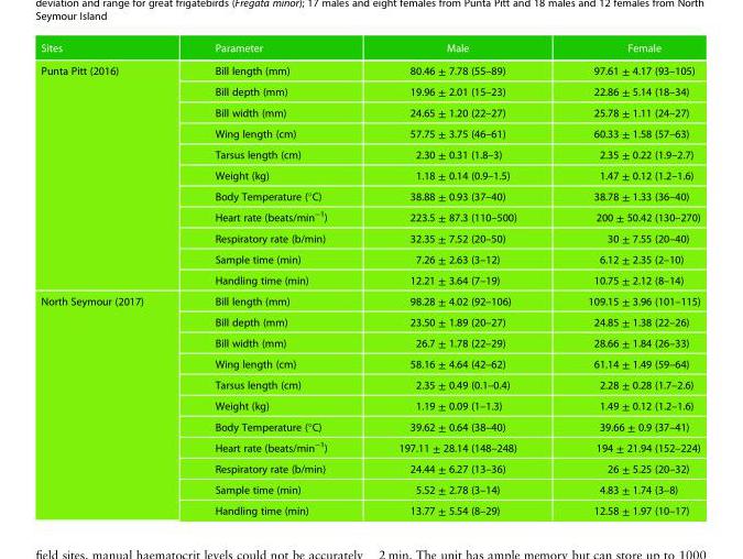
<table><thead><tr><td>Sites</td><td>Parameter</td><td>Male</td><td>Female</td></tr></thead><tbody><tr><td rowspan="11">Punta Pitt (2016)</td><td>Bill length (mm)</td><td>80.46 ± 7.78 (55–89)</td><td>97.61 ± 4.17 (93–105)</td></tr><tr><td>Bill depth (mm)</td><td>19.96 ± 2.01 (15–23)</td><td>22.86 ± 5.14 (18–34)</td></tr><tr><td>Bill width (mm)</td><td>24.65 ± 1.20 (22–27)</td><td>25.78 ± 1.11 (24–27)</td></tr><tr><td>Wing length (cm)</td><td>57.75 ± 3.75 (46–61)</td><td>60.33 ± 1.58 (57–63)</td></tr><tr><td>Tarsus length (cm)</td><td>2.30 ± 0.31 (1.8–3)</td><td>2.35 ± 0.22 (1.9–2.7)</td></tr><tr><td>Weight (kg)</td><td>1.18 ± 0.14 (0.9–1.5)</td><td>1.47 ± 0.12 (1.2–1.6)</td></tr><tr><td>Body Temperature (°C)</td><td>38.88 ± 0.93 (37–40)</td><td>38.78 ± 1.33 (36–40)</td></tr><tr><td>Heart rate (beats/min<sup>−1</sup>)</td><td>223.5 ± 87.3 (110–500)</td><td>200 ± 50.42 (130–270)</td></tr><tr><td>Respiratory rate (b/min)</td><td>32.35 ± 7.52 (20–50)</td><td>30 ± 7.55 (20–40)</td></tr><tr><td>Sample time (min)</td><td>7.26 ± 2.63 (3–12)</td><td>6.12 ± 2.35 (2–10)</td></tr><tr><td>Handling time (min)</td><td>12.21 ± 3.64 (7–19)</td><td>10.75 ± 2.12 (8–14)</td></tr><tr><td rowspan="11">North Seymour (2017)</td><td>Bill length (mm)</td><td>98.28 ± 4.02 (92–106)</td><td>109.15 ± 3.96 (101–115)</td></tr><tr><td>Bill depth (mm)</td><td>23.50 ± 1.89 (20–27)</td><td>24.85 ± 1.38 (22–26)</td></tr><tr><td>Bill width (mm)</td><td>26.7 ± 1.78 (22–29)</td><td>28.66 ± 1.84 (26–33)</td></tr><tr><td>Wing length (cm)</td><td>58.16 ± 4.64 (42–62)</td><td>61.14 ± 1.49 (59–64)</td></tr><tr><td>Tarsus length (cm)</td><td>2.35 ± 0.49 (0.1–0.4)</td><td>2.28 ± 0.28 (1.7–2.6)</td></tr><tr><td>Weight (kg)</td><td>1.19 ± 0.09 (1–1.3)</td><td>1.49 ± 0.12 (1.2–1.6)</td></tr><tr><td>Body Temperature (°C)</td><td>39.62 ± 0.64 (38–40)</td><td>39.66 ± 0.9 (37–41)</td></tr><tr><td>Heart rate (beats/min<sup>−1</sup>)</td><td>197.11 ± 28.14 (148–248)</td><td>194 ± 21.94 (152–224)</td></tr><tr><td>Respiratory rate (b/min)</td><td>24.44 ± 6.27 (13–36)</td><td>26 ± 5.25 (20–32)</td></tr><tr><td>Sample time (min)</td><td>5.52 ± 2.78 (3–14)</td><td>4.83 ± 1.74 (3–8)</td></tr><tr><td>Handling time (min)</td><td>13.77 ± 5.54 (8–29)</td><td>12.58 ± 1.97 (10–17)</td></tr></tbody></table>